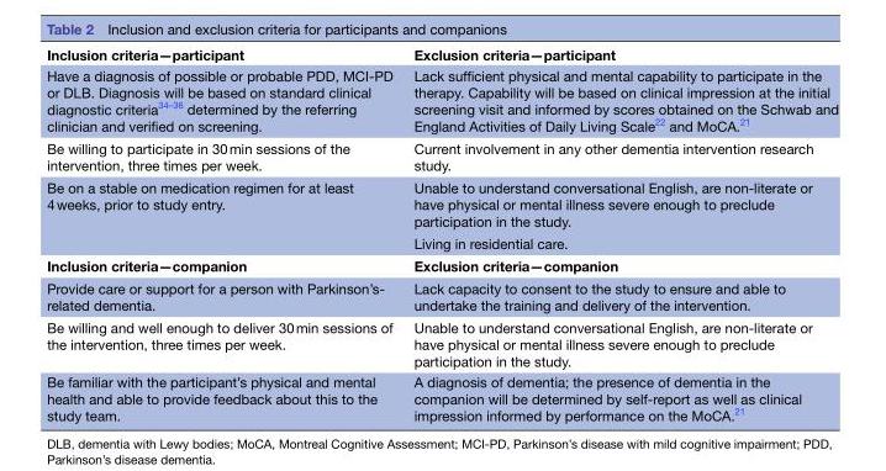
<table><tbody><tr><td>Inclusion criteria—participant</td><td>Exclusion criteria—participant</td></tr><tr><td>Have a diagnosis of possible or probable PDD, MCI-PD or DLB. Diagnosis will be based on standard clinical diagnostic criteria<sup>34–36</sup> determined by the referring clinician and verified on screening.</td><td>Lack sufficient physical and mental capability to participate in the therapy. Capability will be based on clinical impression at the initial screening visit and informed by scores obtained on the Schwab and England Activities of Daily Living Scale<sup>22</sup> and MoCA.<sup>21</sup></td></tr><tr><td>Be willing to participate in 30 min sessions of the intervention, three times per week.</td><td>Current involvement in any other dementia intervention research study.</td></tr><tr><td rowspan="2">Be on a stable on medication regimen for at least 4 weeks, prior to study entry.</td><td>Unable to understand conversational English, are non-literate or have physical or mental illness severe enough to preclude participation in the study.</td></tr><tr><td>Living in residential care.</td></tr><tr><td>Inclusion criteria—companion</td><td>Exclusion criteria—companion</td></tr><tr><td>Provide care or support for a person with Parkinson’s- related dementia.</td><td>Lack capacity to consent to the study to ensure and able to undertake the training and delivery of the intervention.</td></tr><tr><td>Be willing and well enough to deliver 30 min sessions of the intervention, three times per week.</td><td>Unable to understand conversational English, are non-literate or have physical or mental illness severe enough to preclude participation in the study.</td></tr><tr><td>Be familiar with the participant’s physical and mental health and able to provide feedback about this to the study team.</td><td>A diagnosis of dementia; the presence of dementia in the companion will be determined by self-report as well as clinical impression informed by performance on the MoCA.<sup>21</sup></td></tr></tbody></table>